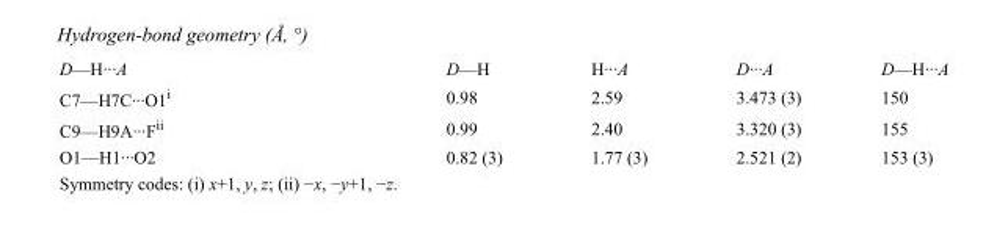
<table><tbody><tr><td>D—H···A</td><td>D—H</td><td>H···A</td><td>D···A</td><td>D—H···A</td></tr><tr><td>C7—H7C···O1<sup>i</sup></td><td>0.98</td><td>2.59</td><td>3.473 (3)</td><td>150</td></tr><tr><td>C9—H9A···F<sup>ii</sup></td><td>0.99</td><td>2.40</td><td>3.320 (3)</td><td>155</td></tr><tr><td>O1—H1···O2</td><td>0.82 (3)</td><td>1.77 (3)</td><td>2.521 (2)</td><td>153 (3)</td></tr></tbody></table>